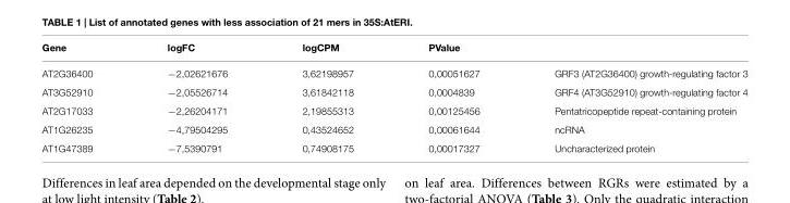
<table><thead><tr><td>Gene</td><td>logFC</td><td>logCPM</td><td>PValue</td><td></td></tr></thead><tbody><tr><td>AT2G36400</td><td>−2,02621676</td><td>3,62198957</td><td>0,00051627</td><td>GRF3 (AT2G36400) growth-regulating factor 3</td></tr><tr><td>AT3G52910</td><td>−2,05526714</td><td>3,61842118</td><td>0,0004839</td><td>GRF4 (AT3G52910) growth-regulating factor 4</td></tr><tr><td>AT2G17033</td><td>−2,26204171</td><td>2,19855313</td><td>0,00125456</td><td>Pentatricopeptide repeat-containing protein</td></tr><tr><td>AT1G26235</td><td>−4,79504295</td><td>0,43524652</td><td>0,00061644</td><td>ncRNA</td></tr><tr><td>AT1G47389</td><td>−7,5390791</td><td>0,74908175</td><td>0,00017327</td><td>Uncharacterized protein</td></tr></tbody></table>